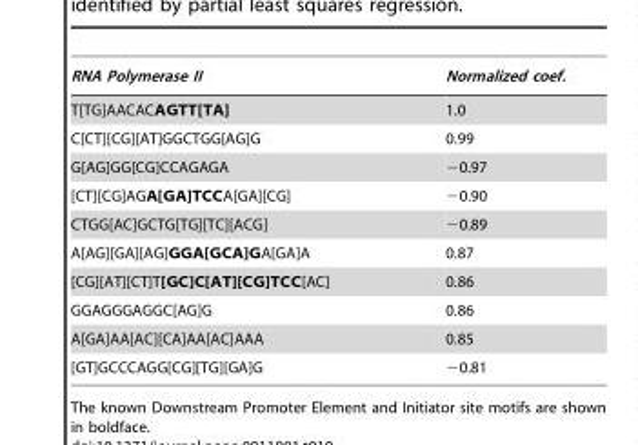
<table><thead><tr><td>RNA Polymerase II</td><td>Normalized coef.</td></tr></thead><tbody><tr><td>T[TG]AACACAGTT[TA]</td><td>1.0</td></tr><tr><td>C[CT][CG][AT]GGCTGG[AG]G</td><td>0.99</td></tr><tr><td>G[AG]GG[CG]CCAGAGA</td><td>−0.97</td></tr><tr><td>[CT][CG]AGA[GA]TCCA[GA][CG]</td><td>−0.90</td></tr><tr><td>CTGG[AC]GCTG[TG][TC][ACG]</td><td>−0.89</td></tr><tr><td>A[AG][GA][AG]GGA[GCA]GA[GA]A</td><td>0.87</td></tr><tr><td>[CG][AT][CT]T[GC]C[AT][CG]TCC[AC]</td><td>0.86</td></tr><tr><td>GGAGGGAGGC[AG]G</td><td>0.86</td></tr><tr><td>A[GA]AA[AC][CA]AA[AC]AAA</td><td>0.85</td></tr><tr><td>[GT]GCCCAGG[CG][TG][GA]G</td><td>−0.81</td></tr></tbody></table>